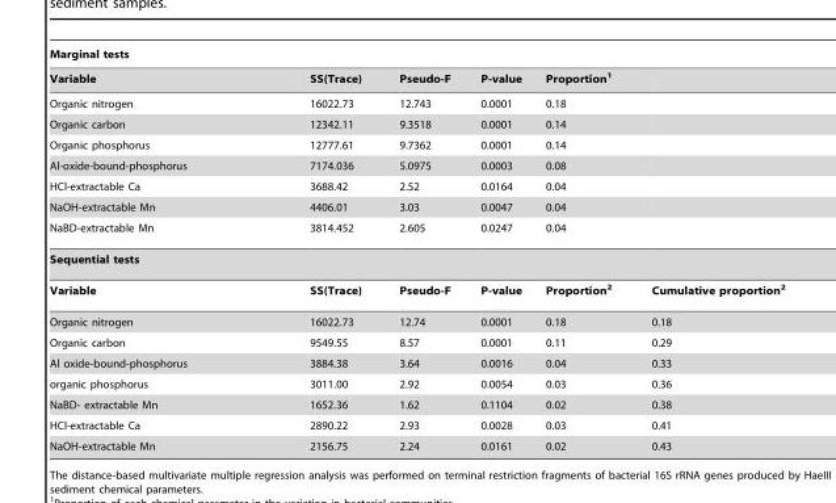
<table><thead><tr><td colspan="6">Marginal tests</td></tr><tr><td>Variable</td><td>SS(Trace)</td><td>Pseudo-F</td><td>P-value</td><td>Proportion<sup>1</sup></td><td></td></tr></thead><tbody><tr><td>Organic nitrogen</td><td>16022.73</td><td>12.743</td><td>0.0001</td><td>0.18</td><td></td></tr><tr><td>Organic carbon</td><td>12342.11</td><td>9.3518</td><td>0.0001</td><td>0.14</td><td></td></tr><tr><td>Organic phosphorus</td><td>12777.61</td><td>9.7362</td><td>0.0001</td><td>0.14</td><td></td></tr><tr><td>Al-oxide-bound-phosphorus</td><td>7174.036</td><td>5.0975</td><td>0.0003</td><td>0.08</td><td></td></tr><tr><td>HCl-extractable Ca</td><td>3688.42</td><td>2.52</td><td>0.0164</td><td>0.04</td><td></td></tr><tr><td>NaOH-extractable Mn</td><td>4406.01</td><td>3.03</td><td>0.0047</td><td>0.04</td><td></td></tr><tr><td>NaBD-extractable Mn</td><td>3814.452</td><td>2.605</td><td>0.0247</td><td>0.04</td><td></td></tr><tr><td colspan="6">Sequential tests</td></tr><tr><td>Variable</td><td>SS(Trace)</td><td>Pseudo-F</td><td>P-value</td><td>Proportion2</td><td>Cumulative proportion2</td></tr><tr><td>Organic nitrogen</td><td>16022.73</td><td>12.74</td><td>0.0001</td><td>0.18</td><td>0.18</td></tr><tr><td>Organic carbon</td><td>9549.55</td><td>8.57</td><td>0.0001</td><td>0.11</td><td>0.29</td></tr><tr><td>Al oxide-bound-phosphorus</td><td>3884.38</td><td>3.64</td><td>0.0016</td><td>0.04</td><td>0.33</td></tr><tr><td>organic phosphorus</td><td>3011.00</td><td>2.92</td><td>0.0054</td><td>0.03</td><td>0.36</td></tr><tr><td>NaBD- extractable Mn</td><td>1652.36</td><td>1.62</td><td>0.1104</td><td>0.02</td><td>0.38</td></tr><tr><td>HCl-extractable Ca</td><td>2890.22</td><td>2.93</td><td>0.0028</td><td>0.03</td><td>0.41</td></tr><tr><td>NaOH-extractable Mn</td><td>2156.75</td><td>2.24</td><td>0.0161</td><td>0.02</td><td>0.43</td></tr></tbody></table>